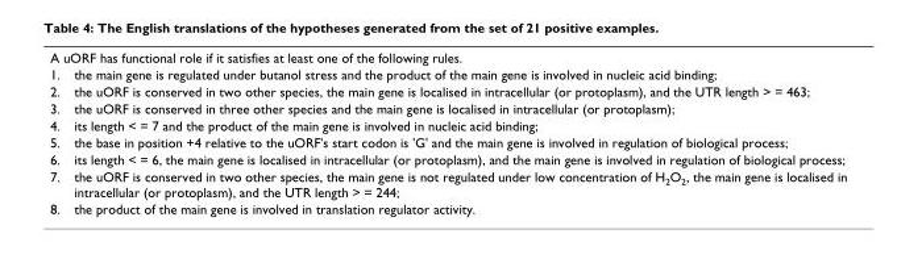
<table><tbody><tr><td colspan="2">A uORF has functional role if it satisfies at least one of the following rules.</td></tr><tr><td>1.</td><td>the main gene is regulated under butanol stress and the product of the main gene is involved in nucleic acid binding;</td></tr><tr><td>2.</td><td>the uORF is conserved in two other species, the main gene is localised in intracellular (or protoplasm), and the UTR length &gt; = 463;</td></tr><tr><td>3.</td><td>the uORF is conserved in three other species and the main gene is localised in intracellular (or protoplasm);</td></tr><tr><td>4.</td><td>its length &lt; = 7 and the product of the main gene is involved in nucleic acid binding;</td></tr><tr><td>5.</td><td>the base in position +4 relative to the uORF&#x27;s start codon is &#x27;G&#x27; and the main gene is involved in regulation of biological process;</td></tr><tr><td>6.</td><td>its length &lt; = 6, the main gene is localised in intracellular (or protoplasm), and the main gene is involved in regulation of biological process;</td></tr><tr><td>7.</td><td>the uORF is conserved in two other species, the main gene is not regulated under low concentration of H<sub>2</sub>O<sub>2</sub>, the main gene is localised in intracellular (or protoplasm), and the UTR length &gt; = 244;</td></tr><tr><td>8.</td><td>the product of the main gene is involved in translation regulator activity.</td></tr></tbody></table>